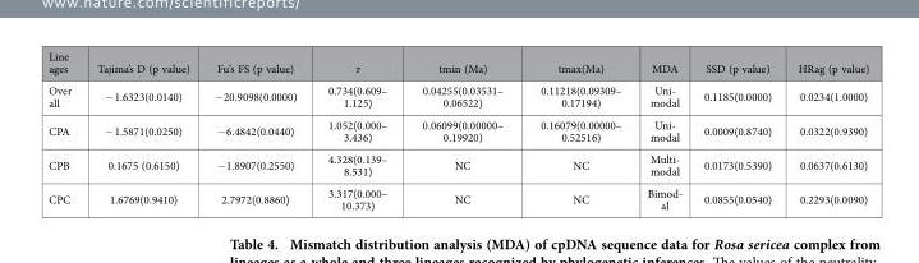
<table><thead><tr><td>Line ages</td><td>Tajima’s D (p value)</td><td>Fu’s FS (p value)</td><td>τ</td><td>tmin (Ma)</td><td>tmax(Ma)</td><td>MDA</td><td>SSD (p value)</td><td>HRag (p value)</td></tr></thead><tbody><tr><td>Over all</td><td>− 1.6323(0.0140)</td><td>− 20.9098(0.0000)</td><td>0.734(0.609– 1.125)</td><td>0.04255(0.03531– 0.06522)</td><td>0.11218(0.09309– 0.17194)</td><td>Uni- modal</td><td>0.1185(0.0000)</td><td>0.0234(1.0000)</td></tr><tr><td>CPA</td><td>− 1.5871(0.0250)</td><td>− 6.4842(0.0440)</td><td>1.052(0.000– 3.436)</td><td>0.06099(0.00000– 0.19920)</td><td>0.16079(0.00000– 0.52516)</td><td>Uni- modal</td><td>0.0009(0.8740)</td><td>0.0322(0.9390)</td></tr><tr><td>CPB</td><td>0.1675 (0.6150)</td><td>− 1.8907(0.2550)</td><td>4.328(0.139– 8.531)</td><td>NC</td><td>NC</td><td>Multi- modal</td><td>0.0173(0.5390)</td><td>0.0637(0.6130)</td></tr><tr><td>CPC</td><td>1.6769(0.9410)</td><td>2.7972(0.8860)</td><td>3.317(0.000– 10.373)</td><td>NC</td><td>NC</td><td>Bimod- al</td><td>0.0855(0.0540)</td><td>0.2293(0.0090)</td></tr></tbody></table>